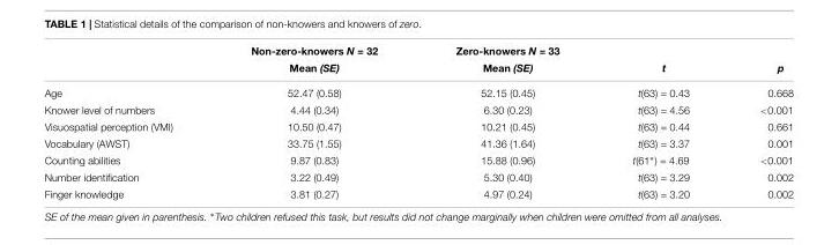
<table><thead><tr><td rowspan="2"></td><td rowspan="2">Non-zero-knowers N = 32 Mean (SE)</td><td rowspan="2">Zero-knowers N = 33 Mean (SE)</td><td rowspan="2">t</td><td rowspan="2">p</td></tr><tr></tr></thead><tbody><tr><td>Age</td><td>52.47 (0.58)</td><td>52.15 (0.45)</td><td>t(63) = 0.43</td><td>0.668</td></tr><tr><td>Knower level of numbers</td><td>4.44 (0.34)</td><td>6.30 (0.23)</td><td>t(63) = 4.56</td><td>&lt;0.001</td></tr><tr><td>Visuospatial perception (VMI)</td><td>10.50 (0.47)</td><td>10.21 (0.45)</td><td>t(63) = 0.44</td><td>0.661</td></tr><tr><td>Vocabulary (AWST)</td><td>33.75 (1.55)</td><td>41.36 (1.64)</td><td>t(63) = 3.37</td><td>0.001</td></tr><tr><td>Counting abilities</td><td>9.87 (0.83)</td><td>15.88 (0.96)</td><td>t(61∗) = 4.69</td><td>&lt;0.001</td></tr><tr><td>Number identification</td><td>3.22 (0.49)</td><td>5.30 (0.40)</td><td>t(63) = 3.29</td><td>0.002</td></tr><tr><td>Finger knowledge</td><td>3.81 (0.27)</td><td>4.97 (0.24)</td><td>t(63) = 3.20</td><td>0.002</td></tr></tbody></table>